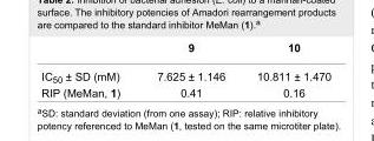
<table><thead><tr><td></td><td>9</td><td>10</td></tr></thead><tbody><tr><td>IC<sub>50</sub> ± SD (mM)</td><td>7.625 ± 1.146</td><td>10.811 ± 1.470</td></tr><tr><td>RIP (MeMan, 1)</td><td>0.41</td><td>0.16</td></tr></tbody></table>